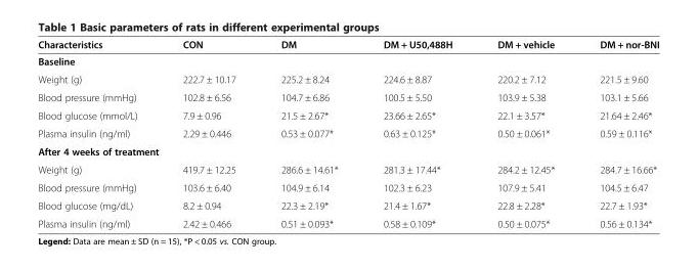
<table><thead><tr><td>Characteristics</td><td>CON</td><td>DM</td><td>DM + U50,488H</td><td>DM + vehicle</td><td>DM + nor-BNI</td></tr></thead><tbody><tr><td colspan="6">Baseline</td></tr><tr><td>Weight (g)</td><td>222.7 ± 10.17</td><td>225.2 ± 8.24</td><td>224.6 ± 8.87</td><td>220.2 ± 7.12</td><td>221.5 ± 9.60</td></tr><tr><td>Blood pressure (mmHg)</td><td>102.8 ± 6.56</td><td>104.7 ± 6.86</td><td>100.5 ± 5.50</td><td>103.9 ± 5.38</td><td>103.1 ± 5.66</td></tr><tr><td>Blood glucose (mmol/L)</td><td>7.9 ± 0.96</td><td>21.5 ± 2.67*</td><td>23.66 ± 2.65*</td><td>22.1 ± 3.57*</td><td>21.64 ± 2.46*</td></tr><tr><td>Plasma insulin (ng/ml)</td><td>2.29 ± 0.446</td><td>0.53 ± 0.077*</td><td>0.63 ± 0.125*</td><td>0.50 ± 0.061*</td><td>0.59 ± 0.116*</td></tr><tr><td colspan="6">After 4 weeks of treatment</td></tr><tr><td>Weight (g)</td><td>419.7 ± 12.25</td><td>286.6 ± 14.61*</td><td>281.3 ± 17.44*</td><td>284.2 ± 12.45*</td><td>284.7 ± 16.66*</td></tr><tr><td>Blood pressure (mmHg)</td><td>103.6 ± 6.40</td><td>104.9 ± 6.14</td><td>102.3 ± 6.23</td><td>107.9 ± 5.41</td><td>104.5 ± 6.47</td></tr><tr><td>Blood glucose (mg/dL)</td><td>8.2 ± 0.94</td><td>22.3 ± 2.19*</td><td>21.4 ± 1.67*</td><td>22.8 ± 2.28*</td><td>22.7 ± 1.93*</td></tr><tr><td>Plasma insulin (ng/ml)</td><td>2.42 ± 0.466</td><td>0.51 ± 0.093*</td><td>0.58 ± 0.109*</td><td>0.50 ± 0.075*</td><td>0.56 ± 0.134*</td></tr></tbody></table>